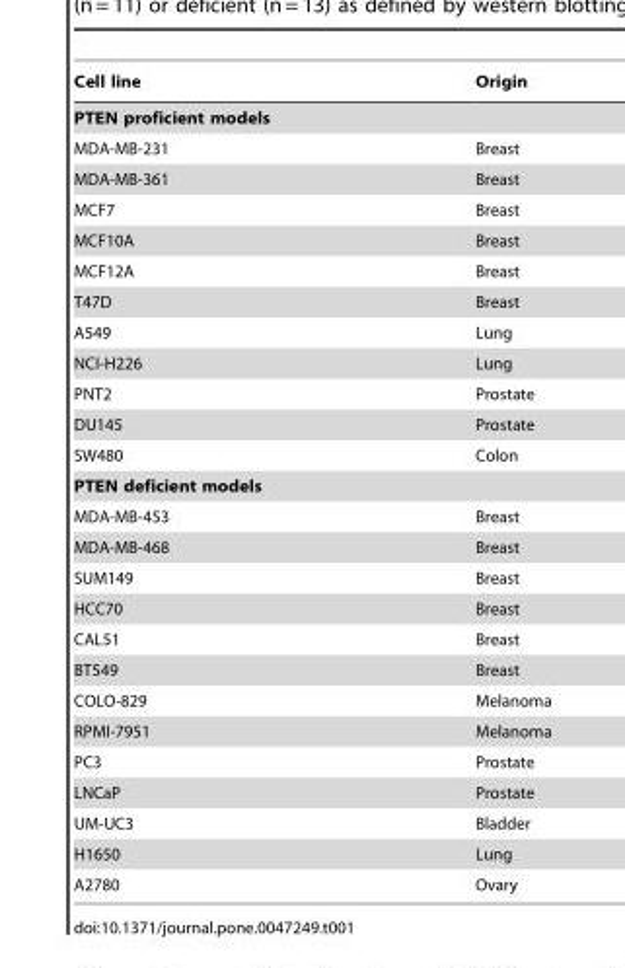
<table><thead><tr><td>Cell line</td><td>Origin</td></tr></thead><tbody><tr><td colspan="2">PTEN proficient models</td></tr><tr><td>MDA-MB-231</td><td>Breast</td></tr><tr><td>MDA-MB-361</td><td>Breast</td></tr><tr><td>MCF7</td><td>Breast</td></tr><tr><td>MCF10A</td><td>Breast</td></tr><tr><td>MCF12A</td><td>Breast</td></tr><tr><td>T47D</td><td>Breast</td></tr><tr><td>A549</td><td>Lung</td></tr><tr><td>NCI-H226</td><td>Lung</td></tr><tr><td>PNT2</td><td>Prostate</td></tr><tr><td>DU145</td><td>Prostate</td></tr><tr><td>SW480</td><td>Colon</td></tr><tr><td colspan="2">PTEN deficient models</td></tr><tr><td>MDA-MB-453</td><td>Breast</td></tr><tr><td>MDA-MB-468</td><td>Breast</td></tr><tr><td>SUM149</td><td>Breast</td></tr><tr><td>HCC70</td><td>Breast</td></tr><tr><td>CAL51</td><td>Breast</td></tr><tr><td>BT549</td><td>Breast</td></tr><tr><td>COLO-829</td><td>Melanoma</td></tr><tr><td>RPMI-7951</td><td>Melanoma</td></tr><tr><td>PC3</td><td>Prostate</td></tr><tr><td>LNCaP</td><td>Prostate</td></tr><tr><td>UM-UC3</td><td>Bladder</td></tr><tr><td>H1650</td><td>Lung</td></tr><tr><td>A2780</td><td>Ovary</td></tr></tbody></table>